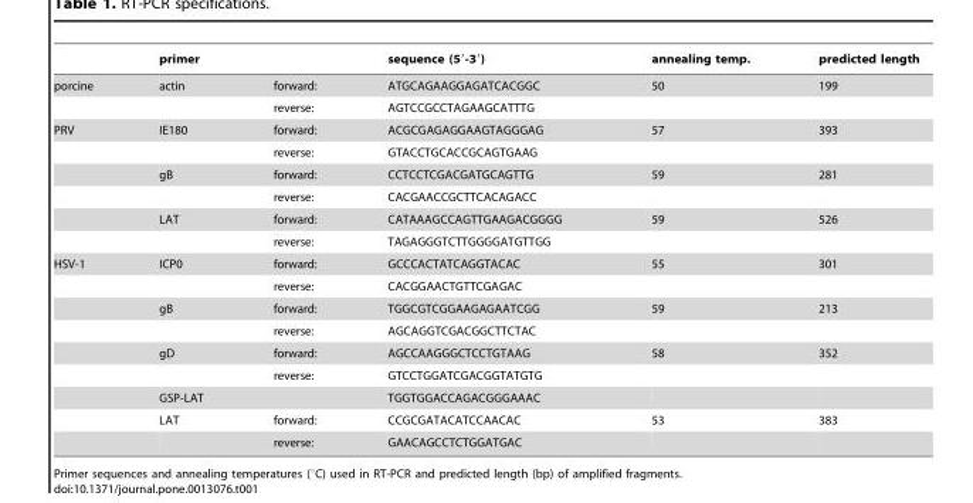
<table><thead><tr><td rowspan="2">porcine</td><td colspan="2">primer</td><td rowspan="2">sequence (5′-3′) ATGCAGAAGGAGATCACGGC</td><td rowspan="2">annealing temp. 50</td><td rowspan="2">predicted length 199</td></tr><tr><td>actin</td><td>forward:</td></tr></thead><tbody><tr><td></td><td></td><td>reverse:</td><td>AGTCCGCCTAGAAGCATTTG</td><td></td><td></td></tr><tr><td rowspan="6">PRV</td><td>IE180</td><td>forward:</td><td>ACGCGAGAGGAAGTAGGGAG</td><td>57</td><td>393</td></tr><tr><td></td><td>reverse:</td><td>GTACCTGCACCGCAGTGAAG</td><td></td><td></td></tr><tr><td>gB</td><td>forward:</td><td>CCTCCTCGACGATGCAGTTG</td><td>59</td><td>281</td></tr><tr><td></td><td>reverse:</td><td>CACGAACCGCTTCACAGACC</td><td></td><td></td></tr><tr><td>LAT</td><td>forward:</td><td>CATAAAGCCAGTTGAAGACGGGG</td><td>59</td><td>526</td></tr><tr><td></td><td>reverse:</td><td>TAGAGGGTCTTGGGGATGTTGG</td><td></td><td></td></tr><tr><td rowspan="9">HSV-1</td><td>ICP0</td><td>forward:</td><td>GCCCACTATCAGGTACAC</td><td>55</td><td>301</td></tr><tr><td></td><td>reverse:</td><td>CACGGAACTGTTCGAGAC</td><td></td><td></td></tr><tr><td>gB</td><td>forward:</td><td>TGGCGTCGGAAGAGAATCGG</td><td>59</td><td>213</td></tr><tr><td></td><td>reverse:</td><td>AGCAGGTCGACGGCTTCTAC</td><td></td><td></td></tr><tr><td>gD</td><td>forward:</td><td>AGCCAAGGGCTCCTGTAAG</td><td>58</td><td>352</td></tr><tr><td></td><td>reverse:</td><td>GTCCTGGATCGACGGTATGTG</td><td></td><td></td></tr><tr><td>GSP-LAT</td><td></td><td>TGGTGGACCAGACGGGAAAC</td><td></td><td></td></tr><tr><td>LAT</td><td>forward:</td><td>CCGCGATACATCCAACAC</td><td>53</td><td>383</td></tr><tr><td></td><td>reverse:</td><td>GAACAGCCTCTGGATGAC</td><td></td><td></td></tr></tbody></table>